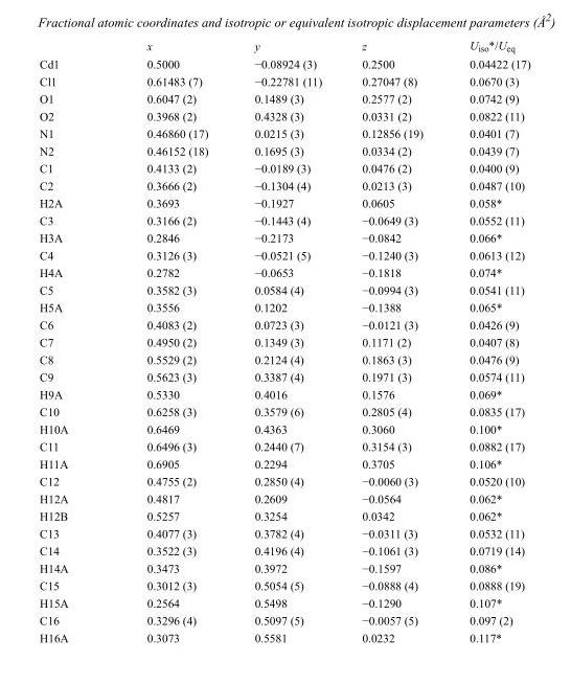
<table><thead><tr><td></td><td>x</td><td>y</td><td>z</td><td>U<sub>iso</sub>*/U<sub>eq</sub></td></tr></thead><tbody><tr><td>Cd1</td><td>0.5000</td><td>−0.08924 (3)</td><td>0.2500</td><td>0.04422 (17)</td></tr><tr><td>Cl1</td><td>0.61483 (7)</td><td>−0.22781 (11)</td><td>0.27047 (8)</td><td>0.0670 (3)</td></tr><tr><td>O1</td><td>0.6047 (2)</td><td>0.1489 (3)</td><td>0.2577 (2)</td><td>0.0742 (9)</td></tr><tr><td>O2</td><td>0.3968 (2)</td><td>0.4328 (3)</td><td>0.0331 (2)</td><td>0.0822 (11)</td></tr><tr><td>N1</td><td>0.46860 (17)</td><td>0.0215 (3)</td><td>0.12856 (19)</td><td>0.0401 (7)</td></tr><tr><td>N2</td><td>0.46152 (18)</td><td>0.1695 (3)</td><td>0.0334 (2)</td><td>0.0439 (7)</td></tr><tr><td>C1</td><td>0.4133 (2)</td><td>−0.0189 (3)</td><td>0.0476 (2)</td><td>0.0400 (9)</td></tr><tr><td>C2</td><td>0.3666 (2)</td><td>−0.1304 (4)</td><td>0.0213 (3)</td><td>0.0487 (10)</td></tr><tr><td>H2A</td><td>0.3693</td><td>−0.1927</td><td>0.0605</td><td>0.058*</td></tr><tr><td>C3</td><td>0.3166 (2)</td><td>−0.1443 (4)</td><td>−0.0649 (3)</td><td>0.0552 (11)</td></tr><tr><td>H3A</td><td>0.2846</td><td>−0.2173</td><td>−0.0842</td><td>0.066*</td></tr><tr><td>C4</td><td>0.3126 (3)</td><td>−0.0521 (5)</td><td>−0.1240 (3)</td><td>0.0613 (12)</td></tr><tr><td>H4A</td><td>0.2782</td><td>−0.0653</td><td>−0.1818</td><td>0.074*</td></tr><tr><td>C5</td><td>0.3582 (3)</td><td>0.0584 (4)</td><td>−0.0994 (3)</td><td>0.0541 (11)</td></tr><tr><td>H5A</td><td>0.3556</td><td>0.1202</td><td>−0.1388</td><td>0.065*</td></tr><tr><td>C6</td><td>0.4083 (2)</td><td>0.0723 (3)</td><td>−0.0121 (3)</td><td>0.0426 (9)</td></tr><tr><td>C7</td><td>0.4950 (2)</td><td>0.1349 (3)</td><td>0.1171 (2)</td><td>0.0407 (8)</td></tr><tr><td>C8</td><td>0.5529 (2)</td><td>0.2124 (4)</td><td>0.1863 (3)</td><td>0.0476 (9)</td></tr><tr><td>C9</td><td>0.5623 (3)</td><td>0.3387 (4)</td><td>0.1971 (3)</td><td>0.0574 (11)</td></tr><tr><td>H9A</td><td>0.5330</td><td>0.4016</td><td>0.1576</td><td>0.069*</td></tr><tr><td>C10</td><td>0.6258 (3)</td><td>0.3579 (6)</td><td>0.2805 (4)</td><td>0.0835 (17)</td></tr><tr><td>H10A</td><td>0.6469</td><td>0.4363</td><td>0.3060</td><td>0.100*</td></tr><tr><td>C11</td><td>0.6496 (3)</td><td>0.2440 (7)</td><td>0.3154 (3)</td><td>0.0882 (17)</td></tr><tr><td>H11A</td><td>0.6905</td><td>0.2294</td><td>0.3705</td><td>0.106*</td></tr><tr><td>C12</td><td>0.4755 (2)</td><td>0.2850 (4)</td><td>−0.0060 (3)</td><td>0.0520 (10)</td></tr><tr><td>H12A</td><td>0.4817</td><td>0.2609</td><td>−0.0564</td><td>0.062*</td></tr><tr><td>H12B</td><td>0.5257</td><td>0.3254</td><td>0.0342</td><td>0.062*</td></tr><tr><td>C13</td><td>0.4077 (3)</td><td>0.3782 (4)</td><td>−0.0311 (3)</td><td>0.0532 (11)</td></tr><tr><td>C14</td><td>0.3522 (3)</td><td>0.4196 (4)</td><td>−0.1061 (3)</td><td>0.0719 (14)</td></tr><tr><td>H14A</td><td>0.3473</td><td>0.3972</td><td>−0.1597</td><td>0.086*</td></tr><tr><td>C15</td><td>0.3012 (3)</td><td>0.5054 (5)</td><td>−0.0888 (4)</td><td>0.0888 (19)</td></tr><tr><td>H15A</td><td>0.2564</td><td>0.5498</td><td>−0.1290</td><td>0.107*</td></tr><tr><td>C16</td><td>0.3296 (4)</td><td>0.5097 (5)</td><td>−0.0057 (5)</td><td>0.097 (2)</td></tr><tr><td>H16A</td><td>0.3073</td><td>0.5581</td><td>0.0232</td><td>0.117*</td></tr></tbody></table>